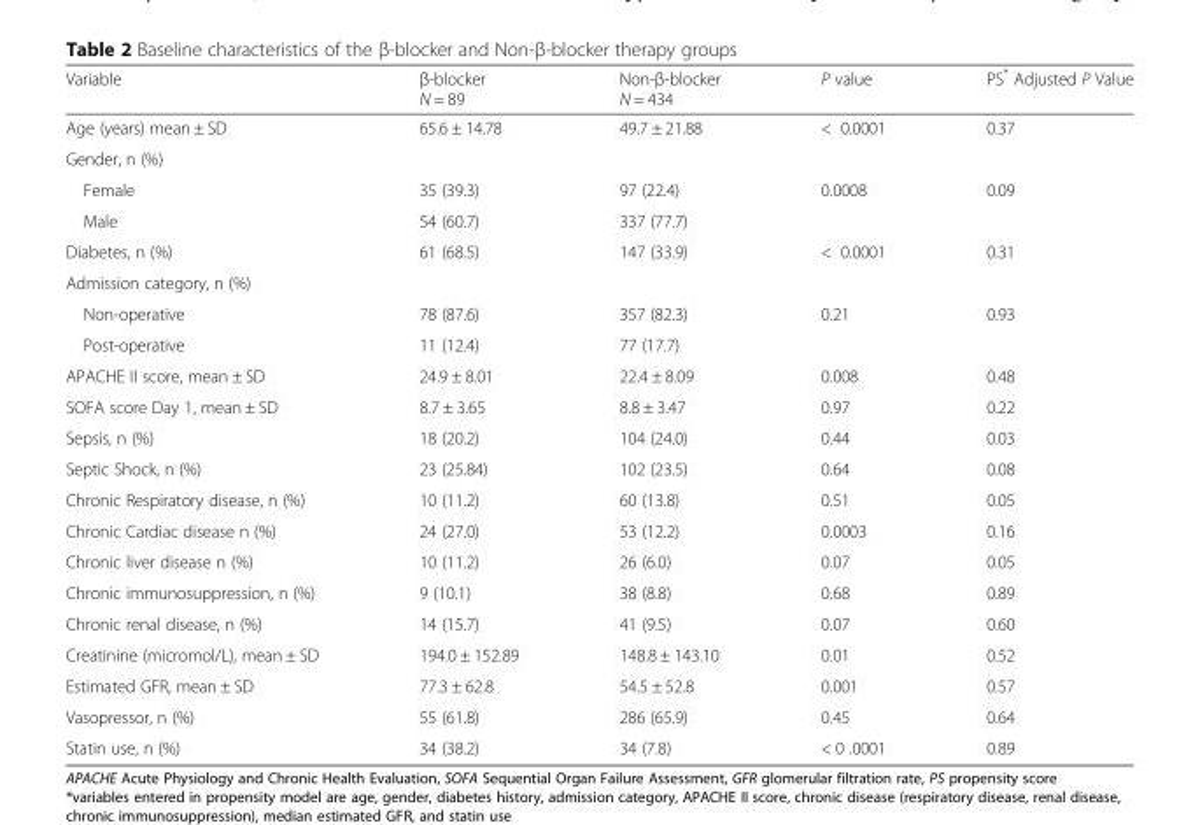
<table><thead><tr><td>Variable</td><td>β-blocker N = 89</td><td>Non-β-blocker N = 434</td><td>P value</td><td>PS* Adjusted P Value</td></tr></thead><tbody><tr><td>Age (years) mean ± SD</td><td>65.6 ± 14.78</td><td>49.7 ± 21.88</td><td>&lt; 0.0001</td><td>0.37</td></tr><tr><td colspan="5">Gender, n (%)</td></tr><tr><td>Female</td><td>35 (39.3)</td><td>97 (22.4)</td><td rowspan="2">0.0008</td><td rowspan="2">0.09</td></tr><tr><td>Male</td><td>54 (60.7)</td><td>337 (77.7)</td></tr><tr><td>Diabetes, n (%)</td><td>61 (68.5)</td><td>147 (33.9)</td><td>&lt; 0.0001</td><td>0.31</td></tr><tr><td colspan="5">Admission category, n (%)</td></tr><tr><td>Non-operative</td><td>78 (87.6)</td><td>357 (82.3)</td><td rowspan="2">0.21</td><td rowspan="2">0.93</td></tr><tr><td>Post-operative</td><td>11 (12.4)</td><td>77 (17.7)</td></tr><tr><td>APACHE II score, mean ± SD</td><td>24.9 ± 8.01</td><td>22.4 ± 8.09</td><td>0.008</td><td>0.48</td></tr><tr><td>SOFA score Day 1, mean ± SD</td><td>8.7 ± 3.65</td><td>8.8 ± 3.47</td><td>0.97</td><td>0.22</td></tr><tr><td>Sepsis, n (%)</td><td>18 (20.2)</td><td>104 (24.0)</td><td>0.44</td><td>0.03</td></tr><tr><td>Septic Shock, n (%)</td><td>23 (25.84)</td><td>102 (23.5)</td><td>0.64</td><td>0.08</td></tr><tr><td>Chronic Respiratory disease, n (%)</td><td>10 (11.2)</td><td>60 (13.8)</td><td>0.51</td><td>0.05</td></tr><tr><td>Chronic Cardiac disease n (%)</td><td>24 (27.0)</td><td>53 (12.2)</td><td>0.0003</td><td>0.16</td></tr><tr><td>Chronic liver disease n (%)</td><td>10 (11.2)</td><td>26 (6.0)</td><td>0.07</td><td>0.05</td></tr><tr><td>Chronic immunosuppression, n (%)</td><td>9 (10.1)</td><td>38 (8.8)</td><td>0.68</td><td>0.89</td></tr><tr><td>Chronic renal disease, n (%)</td><td>14 (15.7)</td><td>41 (9.5)</td><td>0.07</td><td>0.60</td></tr><tr><td>Creatinine (micromol/L), mean ± SD</td><td>194.0 ± 152.89</td><td>148.8 ± 143.10</td><td>0.01</td><td>0.52</td></tr><tr><td>Estimated GFR, mean ± SD</td><td>77.3 ± 62.8</td><td>54.5 ± 52.8</td><td>0.001</td><td>0.57</td></tr><tr><td>Vasopressor, n (%)</td><td>55 (61.8)</td><td>286 (65.9)</td><td>0.45</td><td>0.64</td></tr><tr><td>Statin use, n (%)</td><td>34 (38.2)</td><td>34 (7.8)</td><td>&lt; 0 .0001</td><td>0.89</td></tr></tbody></table>